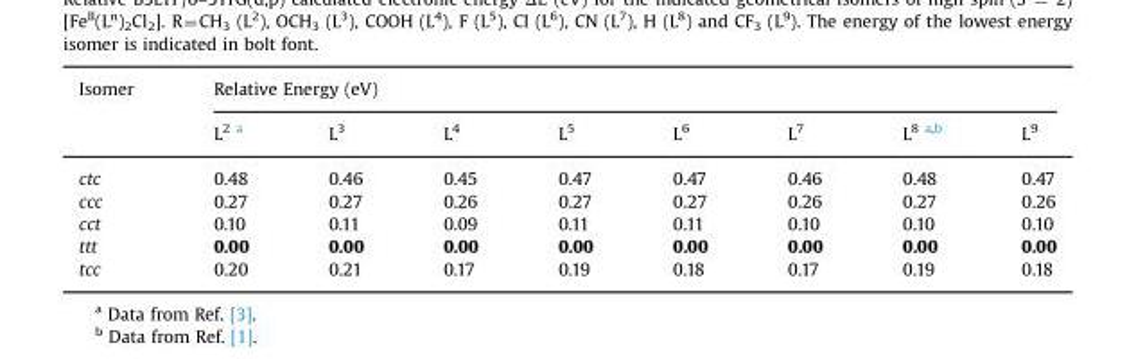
<table><thead><tr><td rowspan="2">Isomer</td><td colspan="8">Relative Energy (eV)</td></tr><tr><td>L<sup>2 a</sup></td><td>L<sup>3</sup></td><td>L<sup>4</sup></td><td>L<sup>5</sup></td><td>L<sup>6</sup></td><td>L<sup>7</sup></td><td>L<sup>8 a,b</sup></td><td>L<sup>9</sup></td></tr></thead><tbody><tr><td>ctc</td><td>0.48</td><td>0.46</td><td>0.45</td><td>0.47</td><td>0.47</td><td>0.46</td><td>0.48</td><td>0.47</td></tr><tr><td>ccc</td><td>0.27</td><td>0.27</td><td>0.26</td><td>0.27</td><td>0.27</td><td>0.26</td><td>0.27</td><td>0.26</td></tr><tr><td>cct</td><td>0.10</td><td>0.11</td><td>0.09</td><td>0.11</td><td>0.11</td><td>0.10</td><td>0.10</td><td>0.10</td></tr><tr><td>ttt</td><td>0.00</td><td>0.00</td><td>0.00</td><td>0.00</td><td>0.00</td><td>0.00</td><td>0.00</td><td>0.00</td></tr><tr><td>tcc</td><td>0.20</td><td>0.21</td><td>0.17</td><td>0.19</td><td>0.18</td><td>0.17</td><td>0.19</td><td>0.18</td></tr></tbody></table>